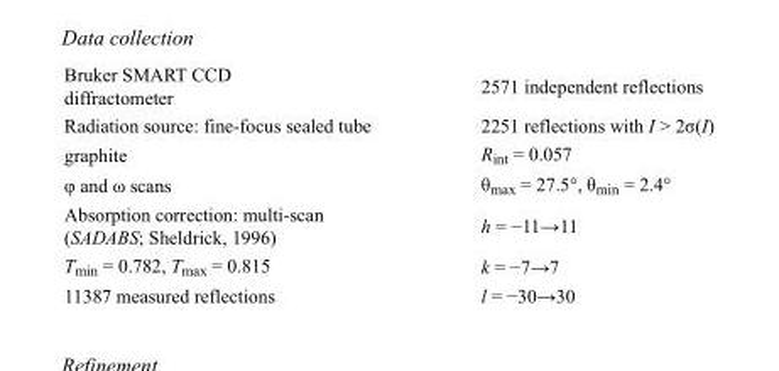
<table><tbody><tr><td>Bruker SMART CCD diffractometer</td><td>2571 independent reflections</td></tr><tr><td>Radiation source: fine-focus sealed tube</td><td>2251 reflections with I &gt; 2σ(I)</td></tr><tr><td>graphite</td><td>R<sub>int</sub> = 0.057</td></tr><tr><td>φ and ω scans</td><td>θ<sub>max</sub> = 27.5°, θ<sub>min</sub> = 2.4°</td></tr><tr><td>Absorption correction: multi-scan (SADABS; Sheldrick, 1996)</td><td>h = −11→11</td></tr><tr><td>T<sub>min</sub> = 0.782, T<sub>max</sub> = 0.815</td><td>k = −7→7</td></tr><tr><td>11387 measured reflections</td><td>l = −30→30</td></tr></tbody></table>